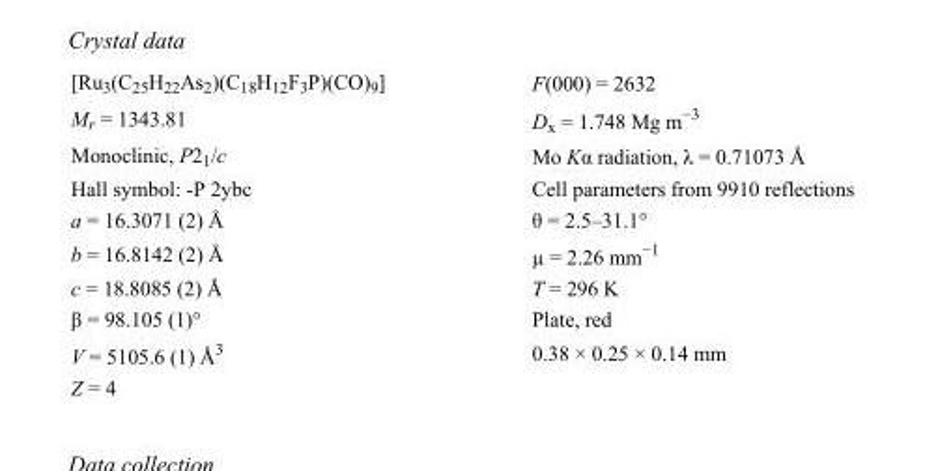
<table><tbody><tr><td>[Ru<sub>3</sub>(C<sub>25</sub>H<sub>22</sub>As<sub>2</sub>)(C<sub>18</sub>H<sub>12</sub>F<sub>3</sub>P)(CO)<sub>9</sub>]</td><td>F(000) = 2632</td></tr><tr><td>M<sub>r</sub> = 1343.81</td><td>D<sub>x</sub> = 1.748 Mg m<sup>−3</sup></td></tr><tr><td>Monoclinic, P2<sub>1</sub>/c</td><td>Mo Kα radiation, λ = 0.71073 Å</td></tr><tr><td>Hall symbol: -P 2ybc</td><td>Cell parameters from 9910 reflections</td></tr><tr><td>a = 16.3071 (2) Å</td><td>θ = 2.5–31.1°</td></tr><tr><td>b = 16.8142 (2) Å</td><td>µ = 2.26 mm<sup>−1</sup></td></tr><tr><td>c = 18.8085 (2) Å</td><td>T = 296 K</td></tr><tr><td>β = 98.105 (1)°</td><td>Plate, red</td></tr><tr><td>V = 5105.6 (1) Å<sup>3</sup></td><td>0.38 × 0.25 × 0.14 mm</td></tr><tr><td>Z = 4</td><td></td></tr></tbody></table>